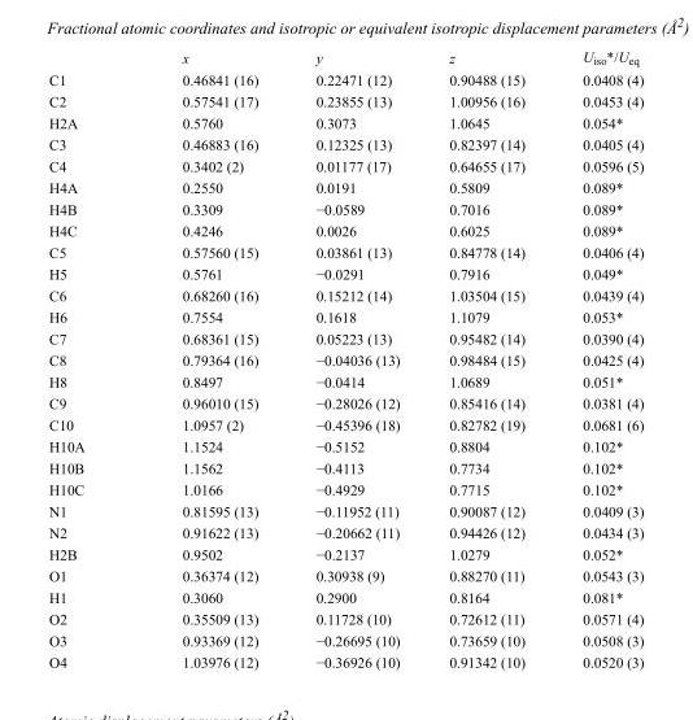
<table><thead><tr><td></td><td>x</td><td>y</td><td>z</td><td>U<sub>iso</sub>*/U<sub>eq</sub></td></tr></thead><tbody><tr><td>C1</td><td>0.46841 (16)</td><td>0.22471 (12)</td><td>0.90488 (15)</td><td>0.0408 (4)</td></tr><tr><td>C2</td><td>0.57541 (17)</td><td>0.23855 (13)</td><td>1.00956 (16)</td><td>0.0453 (4)</td></tr><tr><td>H2A</td><td>0.5760</td><td>0.3073</td><td>1.0645</td><td>0.054*</td></tr><tr><td>C3</td><td>0.46883 (16)</td><td>0.12325 (13)</td><td>0.82397 (14)</td><td>0.0405 (4)</td></tr><tr><td>C4</td><td>0.3402 (2)</td><td>0.01177 (17)</td><td>0.64655 (17)</td><td>0.0596 (5)</td></tr><tr><td>H4A</td><td>0.2550</td><td>0.0191</td><td>0.5809</td><td>0.089*</td></tr><tr><td>H4B</td><td>0.3309</td><td>−0.0589</td><td>0.7016</td><td>0.089*</td></tr><tr><td>H4C</td><td>0.4246</td><td>0.0026</td><td>0.6025</td><td>0.089*</td></tr><tr><td>C5</td><td>0.57560 (15)</td><td>0.03861 (13)</td><td>0.84778 (14)</td><td>0.0406 (4)</td></tr><tr><td>H5</td><td>0.5761</td><td>−0.0291</td><td>0.7916</td><td>0.049*</td></tr><tr><td>C6</td><td>0.68260 (16)</td><td>0.15212 (14)</td><td>1.03504 (15)</td><td>0.0439 (4)</td></tr><tr><td>H6</td><td>0.7554</td><td>0.1618</td><td>1.1079</td><td>0.053*</td></tr><tr><td>C7</td><td>0.68361 (15)</td><td>0.05223 (13)</td><td>0.95482 (14)</td><td>0.0390 (4)</td></tr><tr><td>C8</td><td>0.79364 (16)</td><td>−0.04036 (13)</td><td>0.98484 (15)</td><td>0.0425 (4)</td></tr><tr><td>H8</td><td>0.8497</td><td>−0.0414</td><td>1.0689</td><td>0.051*</td></tr><tr><td>C9</td><td>0.96010 (15)</td><td>−0.28026 (12)</td><td>0.85416 (14)</td><td>0.0381 (4)</td></tr><tr><td>C10</td><td>1.0957 (2)</td><td>−0.45396 (18)</td><td>0.82782 (19)</td><td>0.0681 (6)</td></tr><tr><td>H10A</td><td>1.1524</td><td>−0.5152</td><td>0.8804</td><td>0.102*</td></tr><tr><td>H10B</td><td>1.1562</td><td>−0.4113</td><td>0.7734</td><td>0.102*</td></tr><tr><td>H10C</td><td>1.0166</td><td>−0.4929</td><td>0.7715</td><td>0.102*</td></tr><tr><td>N1</td><td>0.81595 (13)</td><td>−0.11952 (11)</td><td>0.90087 (12)</td><td>0.0409 (3)</td></tr><tr><td>N2</td><td>0.91622 (13)</td><td>−0.20662 (11)</td><td>0.94426 (12)</td><td>0.0434 (3)</td></tr><tr><td>H2B</td><td>0.9502</td><td>−0.2137</td><td>1.0279</td><td>0.052*</td></tr><tr><td>O1</td><td>0.36374 (12)</td><td>0.30938 (9)</td><td>0.88270 (11)</td><td>0.0543 (3)</td></tr><tr><td>H1</td><td>0.3060</td><td>0.2900</td><td>0.8164</td><td>0.081*</td></tr><tr><td>O2</td><td>0.35509 (13)</td><td>0.11728 (10)</td><td>0.72612 (11)</td><td>0.0571 (4)</td></tr><tr><td>O3</td><td>0.93369 (12)</td><td>−0.26695 (10)</td><td>0.73659 (10)</td><td>0.0508 (3)</td></tr><tr><td>O4</td><td>1.03976 (12)</td><td>−0.36926 (10)</td><td>0.91342 (10)</td><td>0.0520 (3)</td></tr></tbody></table>